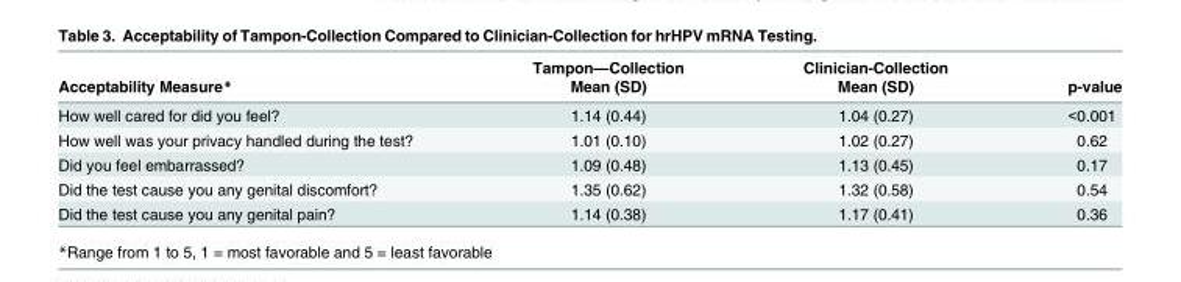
<table><thead><tr><td rowspan="2">Acceptability Measure*</td><td rowspan="2">Tampon—Collection Mean (SD)</td><td rowspan="2">Clinician-Collection Mean (SD)</td><td rowspan="2">p-value</td></tr><tr></tr></thead><tbody><tr><td>How well cared for did you feel?</td><td>1.14 (0.44)</td><td>1.04 (0.27)</td><td>&lt;0.001</td></tr><tr><td>How well was your privacy handled during the test?</td><td>1.01 (0.10)</td><td>1.02 (0.27)</td><td>0.62</td></tr><tr><td>Did you feel embarrassed?</td><td>1.09 (0.48)</td><td>1.13 (0.45)</td><td>0.17</td></tr><tr><td>Did the test cause you any genital discomfort?</td><td>1.35 (0.62)</td><td>1.32 (0.58)</td><td>0.54</td></tr><tr><td>Did the test cause you any genital pain?</td><td>1.14 (0.38)</td><td>1.17 (0.41)</td><td>0.36</td></tr></tbody></table>